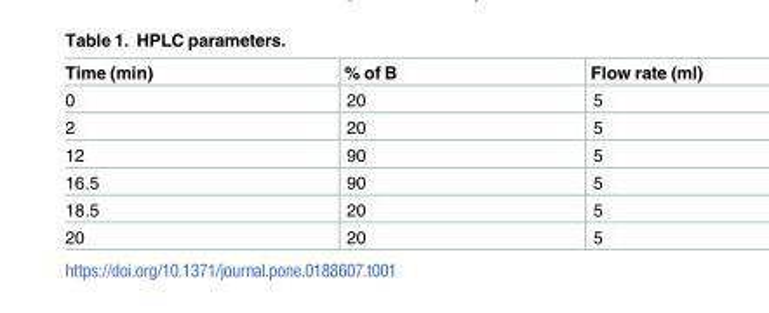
<table><thead><tr><td>Time (min)</td><td>% of B</td><td>Flow rate (ml)</td></tr></thead><tbody><tr><td>0</td><td>20</td><td>5</td></tr><tr><td>2</td><td>20</td><td>5</td></tr><tr><td>12</td><td>90</td><td>5</td></tr><tr><td>16.5</td><td>90</td><td>5</td></tr><tr><td>18.5</td><td>20</td><td>5</td></tr><tr><td>20</td><td>20</td><td>5</td></tr></tbody></table>